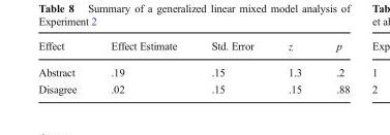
<table><thead><tr><td>Effect</td><td>Effect Estimate</td><td>Std. Error</td><td>z</td><td>p</td></tr></thead><tbody><tr><td>Abstract</td><td>.19</td><td>.15</td><td>1.3</td><td>.2</td></tr><tr><td>Disagree</td><td>.02</td><td>.15</td><td>.15</td><td>.88</td></tr></tbody></table>